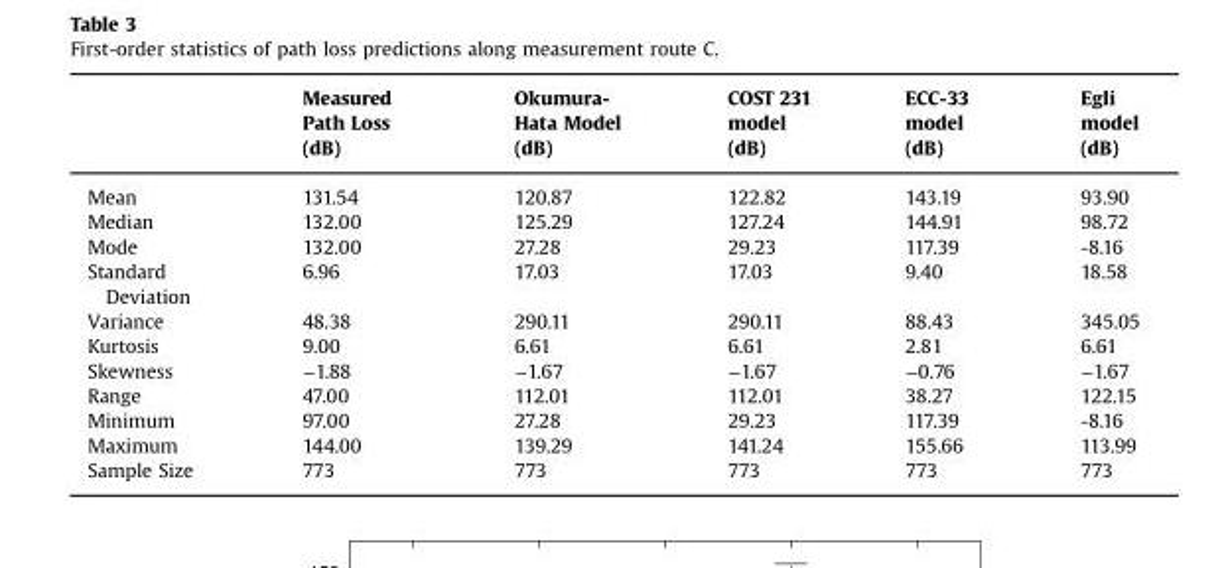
<table><thead><tr><td></td><td>Measured Path Loss (dB)</td><td>Okumura- Hata Model (dB)</td><td>COST 231 model (dB)</td><td>ECC-33 model (dB)</td><td>Egli model (dB)</td></tr></thead><tbody><tr><td>Mean</td><td>131.54</td><td>120.87</td><td>122.82</td><td>143.19</td><td>93.90</td></tr><tr><td>Median</td><td>132.00</td><td>125.29</td><td>127.24</td><td>144.91</td><td>98.72</td></tr><tr><td>Mode</td><td>132.00</td><td>27.28</td><td>29.23</td><td>117.39</td><td>-8.16</td></tr><tr><td>Standard Deviation</td><td>6.96</td><td>17.03</td><td>17.03</td><td>9.40</td><td>18.58</td></tr><tr><td>Variance</td><td>48.38</td><td>290.11</td><td>290.11</td><td>88.43</td><td>345.05</td></tr><tr><td>Kurtosis</td><td>9.00</td><td>6.61</td><td>6.61</td><td>2.81</td><td>6.61</td></tr><tr><td>Skewness</td><td>−1.88</td><td>−1.67</td><td>−1.67</td><td>−0.76</td><td>−1.67</td></tr><tr><td>Range</td><td>47.00</td><td>112.01</td><td>112.01</td><td>38.27</td><td>122.15</td></tr><tr><td>Minimum</td><td>97.00</td><td>27.28</td><td>29.23</td><td>117.39</td><td>-8.16</td></tr><tr><td>Maximum</td><td>144.00</td><td>139.29</td><td>141.24</td><td>155.66</td><td>113.99</td></tr><tr><td>Sample Size</td><td>773</td><td>773</td><td>773</td><td>773</td><td>773</td></tr></tbody></table>